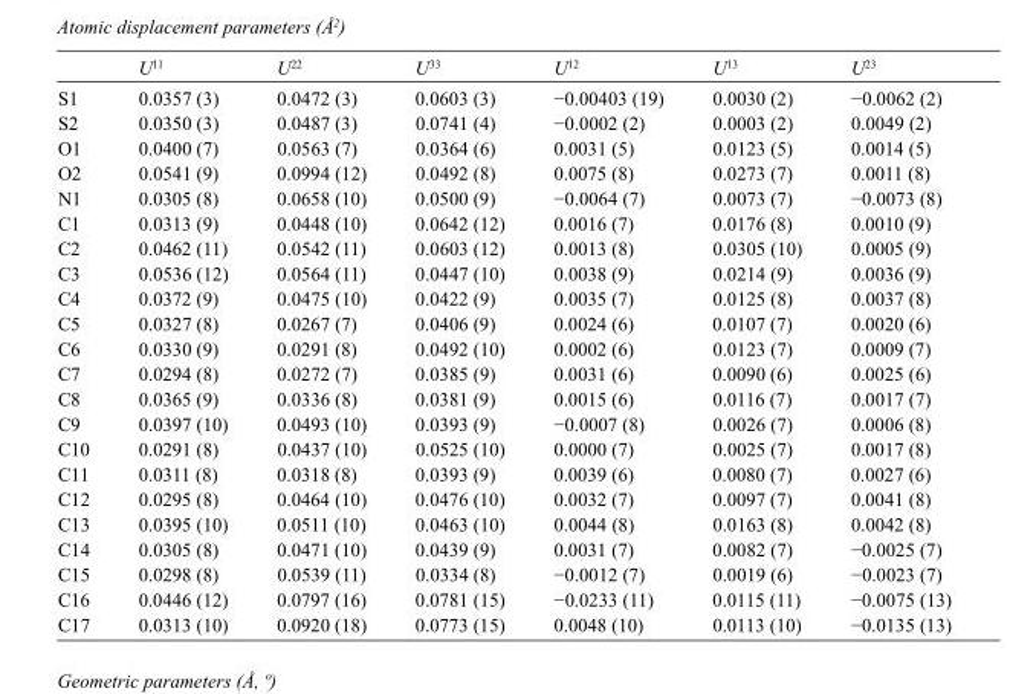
<table><thead><tr><td></td><td>U<sup>11</sup></td><td>U<sup>22</sup></td><td>U<sup>33</sup></td><td>U<sup>12</sup></td><td>U<sup>13</sup></td><td>U<sup>23</sup></td></tr></thead><tbody><tr><td>S1</td><td>0.0357 (3)</td><td>0.0472 (3)</td><td>0.0603 (3)</td><td>−0.00403 (19)</td><td>0.0030 (2)</td><td>−0.0062 (2)</td></tr><tr><td>S2</td><td>0.0350 (3)</td><td>0.0487 (3)</td><td>0.0741 (4)</td><td>−0.0002 (2)</td><td>0.0003 (2)</td><td>0.0049 (2)</td></tr><tr><td>O1</td><td>0.0400 (7)</td><td>0.0563 (7)</td><td>0.0364 (6)</td><td>0.0031 (5)</td><td>0.0123 (5)</td><td>0.0014 (5)</td></tr><tr><td>O2</td><td>0.0541 (9)</td><td>0.0994 (12)</td><td>0.0492 (8)</td><td>0.0075 (8)</td><td>0.0273 (7)</td><td>0.0011 (8)</td></tr><tr><td>N1</td><td>0.0305 (8)</td><td>0.0658 (10)</td><td>0.0500 (9)</td><td>−0.0064 (7)</td><td>0.0073 (7)</td><td>−0.0073 (8)</td></tr><tr><td>C1</td><td>0.0313 (9)</td><td>0.0448 (10)</td><td>0.0642 (12)</td><td>0.0016 (7)</td><td>0.0176 (8)</td><td>0.0010 (9)</td></tr><tr><td>C2</td><td>0.0462 (11)</td><td>0.0542 (11)</td><td>0.0603 (12)</td><td>0.0013 (8)</td><td>0.0305 (10)</td><td>0.0005 (9)</td></tr><tr><td>C3</td><td>0.0536 (12)</td><td>0.0564 (11)</td><td>0.0447 (10)</td><td>0.0038 (9)</td><td>0.0214 (9)</td><td>0.0036 (9)</td></tr><tr><td>C4</td><td>0.0372 (9)</td><td>0.0475 (10)</td><td>0.0422 (9)</td><td>0.0035 (7)</td><td>0.0125 (8)</td><td>0.0037 (8)</td></tr><tr><td>C5</td><td>0.0327 (8)</td><td>0.0267 (7)</td><td>0.0406 (9)</td><td>0.0024 (6)</td><td>0.0107 (7)</td><td>0.0020 (6)</td></tr><tr><td>C6</td><td>0.0330 (9)</td><td>0.0291 (8)</td><td>0.0492 (10)</td><td>0.0002 (6)</td><td>0.0123 (7)</td><td>0.0009 (7)</td></tr><tr><td>C7</td><td>0.0294 (8)</td><td>0.0272 (7)</td><td>0.0385 (9)</td><td>0.0031 (6)</td><td>0.0090 (6)</td><td>0.0025 (6)</td></tr><tr><td>C8</td><td>0.0365 (9)</td><td>0.0336 (8)</td><td>0.0381 (9)</td><td>0.0015 (6)</td><td>0.0116 (7)</td><td>0.0017 (7)</td></tr><tr><td>C9</td><td>0.0397 (10)</td><td>0.0493 (10)</td><td>0.0393 (9)</td><td>−0.0007 (8)</td><td>0.0026 (7)</td><td>0.0006 (8)</td></tr><tr><td>C10</td><td>0.0291 (8)</td><td>0.0437 (10)</td><td>0.0525 (10)</td><td>0.0000 (7)</td><td>0.0025 (7)</td><td>0.0017 (8)</td></tr><tr><td>C11</td><td>0.0311 (8)</td><td>0.0318 (8)</td><td>0.0393 (9)</td><td>0.0039 (6)</td><td>0.0080 (7)</td><td>0.0027 (6)</td></tr><tr><td>C12</td><td>0.0295 (8)</td><td>0.0464 (10)</td><td>0.0476 (10)</td><td>0.0032 (7)</td><td>0.0097 (7)</td><td>0.0041 (8)</td></tr><tr><td>C13</td><td>0.0395 (10)</td><td>0.0511 (10)</td><td>0.0463 (10)</td><td>0.0044 (8)</td><td>0.0163 (8)</td><td>0.0042 (8)</td></tr><tr><td>C14</td><td>0.0305 (8)</td><td>0.0471 (10)</td><td>0.0439 (9)</td><td>0.0031 (7)</td><td>0.0082 (7)</td><td>−0.0025 (7)</td></tr><tr><td>C15</td><td>0.0298 (8)</td><td>0.0539 (11)</td><td>0.0334 (8)</td><td>−0.0012 (7)</td><td>0.0019 (6)</td><td>−0.0023 (7)</td></tr><tr><td>C16</td><td>0.0446 (12)</td><td>0.0797 (16)</td><td>0.0781 (15)</td><td>−0.0233 (11)</td><td>0.0115 (11)</td><td>−0.0075 (13)</td></tr><tr><td>C17</td><td>0.0313 (10)</td><td>0.0920 (18)</td><td>0.0773 (15)</td><td>0.0048 (10)</td><td>0.0113 (10)</td><td>−0.0135 (13)</td></tr></tbody></table>